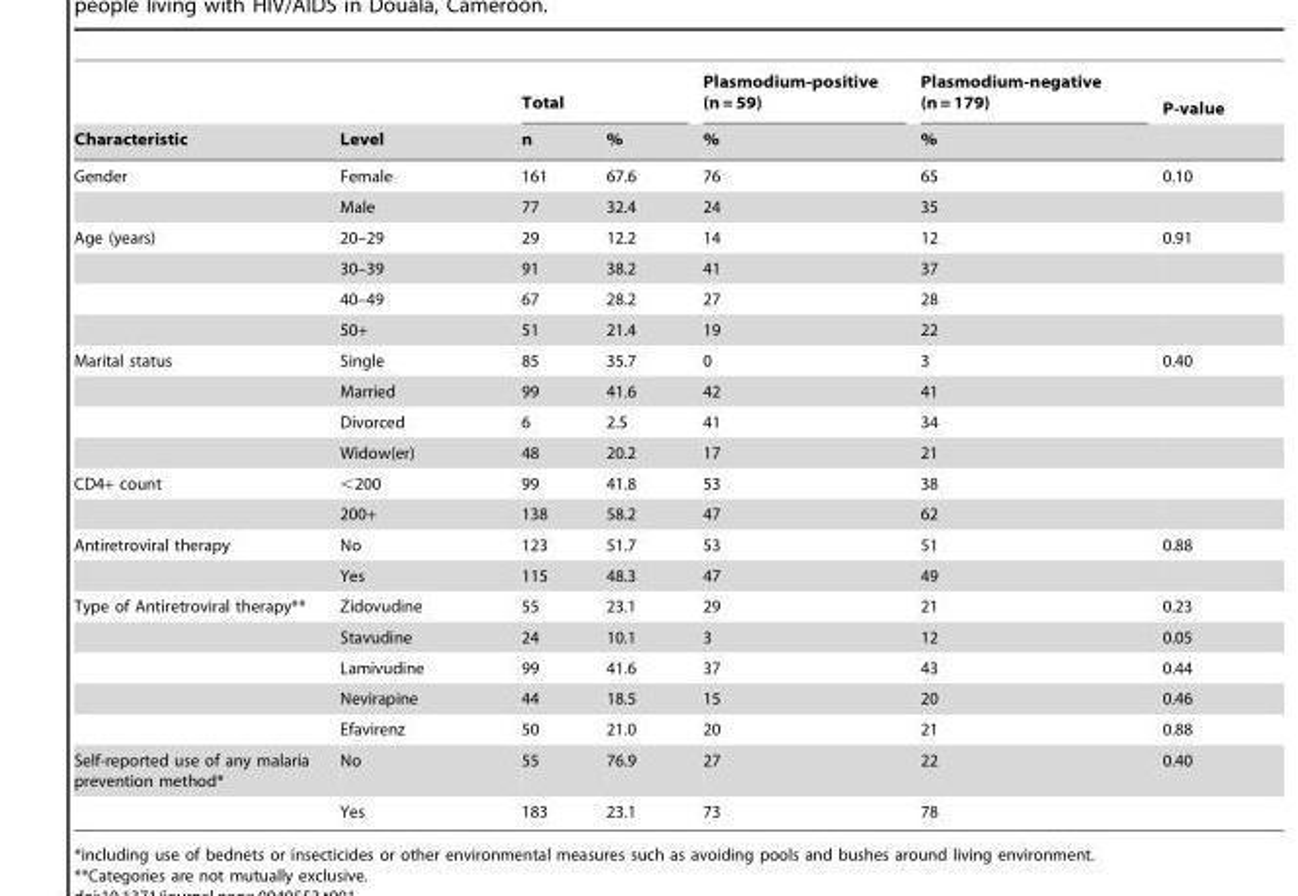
<table><thead><tr><td rowspan="2">Characteristic</td><td rowspan="2">Level</td><td colspan="2">Total</td><td rowspan="2">Plasmodium-positive (n = 59) %</td><td rowspan="2">Plasmodium-negative (n = 179) %</td><td rowspan="2">P-value</td></tr><tr><td>n</td><td>%</td></tr></thead><tbody><tr><td rowspan="2">Gender</td><td>Female</td><td>161</td><td>67.6</td><td>76</td><td>65</td><td>0.10</td></tr><tr><td>Male</td><td>77</td><td>32.4</td><td>24</td><td>35</td><td></td></tr><tr><td rowspan="4">Age (years)</td><td>20–29</td><td>29</td><td>12.2</td><td>14</td><td>12</td><td>0.91</td></tr><tr><td>30–39</td><td>91</td><td>38.2</td><td>41</td><td>37</td><td></td></tr><tr><td>40–49</td><td>67</td><td>28.2</td><td>27</td><td>28</td><td></td></tr><tr><td>50+</td><td>51</td><td>21.4</td><td>19</td><td>22</td><td></td></tr><tr><td rowspan="4">Marital status</td><td>Single</td><td>85</td><td>35.7</td><td>0</td><td>3</td><td>0.40</td></tr><tr><td>Married</td><td>99</td><td>41.6</td><td>42</td><td>41</td><td></td></tr><tr><td>Divorced</td><td>6</td><td>2.5</td><td>41</td><td>34</td><td></td></tr><tr><td>Widow(er)</td><td>48</td><td>20.2</td><td>17</td><td>21</td><td></td></tr><tr><td rowspan="2">CD4+ count</td><td>&lt;200</td><td>99</td><td>41.8</td><td>53</td><td>38</td><td></td></tr><tr><td>200+</td><td>138</td><td>58.2</td><td>47</td><td>62</td><td></td></tr><tr><td rowspan="2">Antiretroviral therapy</td><td>No</td><td>123</td><td>51.7</td><td>53</td><td>51</td><td>0.88</td></tr><tr><td>Yes</td><td>115</td><td>48.3</td><td>47</td><td>49</td><td></td></tr><tr><td rowspan="5">Type of Antiretroviral therapy**</td><td>Zidovudine</td><td>55</td><td>23.1</td><td>29</td><td>21</td><td>0.23</td></tr><tr><td>Stavudine</td><td>24</td><td>10.1</td><td>3</td><td>12</td><td>0.05</td></tr><tr><td>Lamivudine</td><td>99</td><td>41.6</td><td>37</td><td>43</td><td>0.44</td></tr><tr><td>Nevirapine</td><td>44</td><td>18.5</td><td>15</td><td>20</td><td>0.46</td></tr><tr><td>Efavirenz</td><td>50</td><td>21.0</td><td>20</td><td>21</td><td>0.88</td></tr><tr><td rowspan="2">Self-reported use of any malaria prevention method*</td><td>No</td><td>55</td><td>76.9</td><td>27</td><td>22</td><td>0.40</td></tr><tr><td>Yes</td><td>183</td><td>23.1</td><td>73</td><td>78</td><td></td></tr></tbody></table>